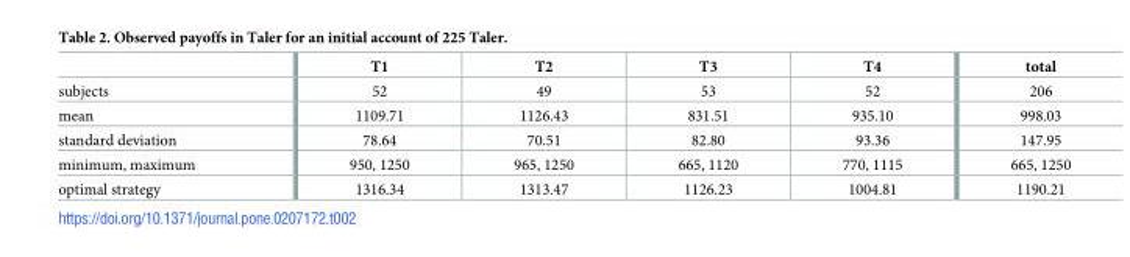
<table><thead><tr><td></td><td>T1</td><td>T2</td><td>T3</td><td>T4</td><td>total</td></tr></thead><tbody><tr><td>subjects</td><td>52</td><td>49</td><td>53</td><td>52</td><td>206</td></tr><tr><td>mean</td><td>1109.71</td><td>1126.43</td><td>831.51</td><td>935.10</td><td>998.03</td></tr><tr><td>standard deviation</td><td>78.64</td><td>70.51</td><td>82.80</td><td>93.36</td><td>147.95</td></tr><tr><td>minimum, maximum</td><td>950, 1250</td><td>965, 1250</td><td>665, 1120</td><td>770, 1115</td><td>665, 1250</td></tr><tr><td>optimal strategy</td><td>1316.34</td><td>1313.47</td><td>1126.23</td><td>1004.81</td><td>1190.21</td></tr></tbody></table>